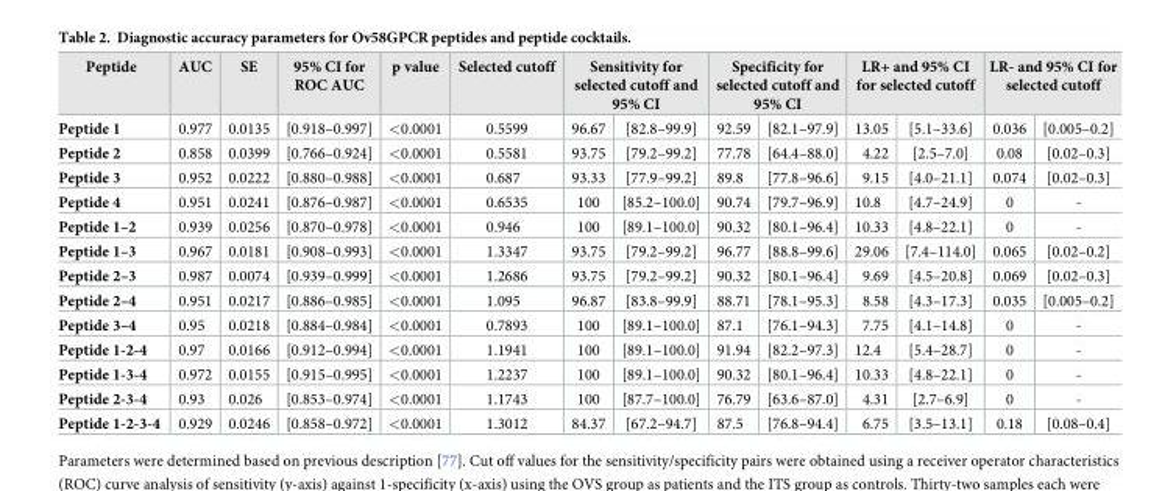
<table><thead><tr><td rowspan="2">Peptide Peptide 1</td><td rowspan="2">AUC 0.977</td><td rowspan="2">SE 0.0135</td><td rowspan="2">95% CI for ROC AUC [0.918–0.997]</td><td rowspan="2">p value &lt;0.0001</td><td rowspan="2">Selected cutoff 0.5599</td><td colspan="2">Sensitivity for selected cutoff and 95% CI</td><td colspan="2">Specificity for selected cutoff and 95% CI</td><td colspan="2">LR+ and 95% CI for selected cutoff</td><td colspan="2">LR- and 95% CI for selected cutoff</td></tr><tr><td>96.67</td><td>[82.8–99.9]</td><td>92.59</td><td>[82.1–97.9]</td><td>13.05</td><td>[5.1–33.6]</td><td>0.036</td><td>[0.005–0.2]</td></tr></thead><tbody><tr><td>Peptide 2</td><td>0.858</td><td>0.0399</td><td>[0.766–0.924]</td><td>&lt;0.0001</td><td>0.5581</td><td>93.75</td><td>[79.2–99.2]</td><td>77.78</td><td>[64.4–88.0]</td><td>4.22</td><td>[2.5–7.0]</td><td>0.08</td><td>[0.02–0.3]</td></tr><tr><td>Peptide 3</td><td>0.952</td><td>0.0222</td><td>[0.880–0.988]</td><td>&lt;0.0001</td><td>0.687</td><td>93.33</td><td>[77.9–99.2]</td><td>89.8</td><td>[77.8–96.6]</td><td>9.15</td><td>[4.0–21.1]</td><td>0.074</td><td>[0.02–0.3]</td></tr><tr><td>Peptide 4</td><td>0.951</td><td>0.0241</td><td>[0.876–0.987]</td><td>&lt;0.0001</td><td>0.6535</td><td>100</td><td>[85.2–100.0]</td><td>90.74</td><td>[79.7–96.9]</td><td>10.8</td><td>[4.7–24.9]</td><td>0</td><td>-</td></tr><tr><td>Peptide 1–2</td><td>0.939</td><td>0.0256</td><td>[0.870–0.978]</td><td>&lt;0.0001</td><td>0.946</td><td>100</td><td>[89.1–100.0]</td><td>90.32</td><td>[80.1–96.4]</td><td>10.33</td><td>[4.8–22.1]</td><td>0</td><td>-</td></tr><tr><td>Peptide 1–3</td><td>0.967</td><td>0.0181</td><td>[0.908–0.993]</td><td>&lt;0.0001</td><td>1.3347</td><td>93.75</td><td>[79.2–99.2]</td><td>96.77</td><td>[88.8–99.6]</td><td>29.06</td><td>[7.4–114.0]</td><td>0.065</td><td>[0.02–0.2]</td></tr><tr><td>Peptide 2–3</td><td>0.987</td><td>0.0074</td><td>[0.939–0.999]</td><td>&lt;0.0001</td><td>1.2686</td><td>93.75</td><td>[79.2–99.2]</td><td>90.32</td><td>[80.1–96.4]</td><td>9.69</td><td>[4.5–20.8]</td><td>0.069</td><td>[0.02–0.3]</td></tr><tr><td>Peptide 2–4</td><td>0.951</td><td>0.0217</td><td>[0.886–0.985]</td><td>&lt;0.0001</td><td>1.095</td><td>96.87</td><td>[83.8–99.9]</td><td>88.71</td><td>[78.1–95.3]</td><td>8.58</td><td>[4.3–17.3]</td><td>0.035</td><td>[0.005–0.2]</td></tr><tr><td>Peptide 3–4</td><td>0.95</td><td>0.0218</td><td>[0.884–0.984]</td><td>&lt;0.0001</td><td>0.7893</td><td>100</td><td>[89.1–100.0]</td><td>87.1</td><td>[76.1–94.3]</td><td>7.75</td><td>[4.1–14.8]</td><td>0</td><td>-</td></tr><tr><td>Peptide 1-2-4</td><td>0.97</td><td>0.0166</td><td>[0.912–0.994]</td><td>&lt;0.0001</td><td>1.1941</td><td>100</td><td>[89.1–100.0]</td><td>91.94</td><td>[82.2–97.3]</td><td>12.4</td><td>[5.4–28.7]</td><td>0</td><td>-</td></tr><tr><td>Peptide 1-3-4</td><td>0.972</td><td>0.0155</td><td>[0.915–0.995]</td><td>&lt;0.0001</td><td>1.2237</td><td>100</td><td>[89.1–100.0]</td><td>90.32</td><td>[80.1–96.4]</td><td>10.33</td><td>[4.8–22.1]</td><td>0</td><td>-</td></tr><tr><td>Peptide 2-3-4</td><td>0.93</td><td>0.026</td><td>[0.853–0.974]</td><td>&lt;0.0001</td><td>1.1743</td><td>100</td><td>[87.7–100.0]</td><td>76.79</td><td>[63.6–87.0]</td><td>4.31</td><td>[2.7–6.9]</td><td>0</td><td>-</td></tr><tr><td>Peptide 1-2-3-4</td><td>0.929</td><td>0.0246</td><td>[0.858–0.972]</td><td>&lt;0.0001</td><td>1.3012</td><td>84.37</td><td>[67.2–94.7]</td><td>87.5</td><td>[76.8–94.4]</td><td>6.75</td><td>[3.5–13.1]</td><td>0.18</td><td>[0.08–0.4]</td></tr></tbody></table>